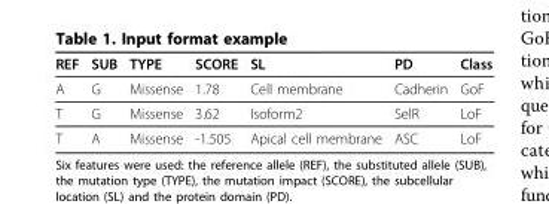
<table><thead><tr><td>REF</td><td>SUB</td><td>TYPE</td><td>SCORE</td><td>SL</td><td>PD</td><td>Class</td></tr></thead><tbody><tr><td>A</td><td>G</td><td>Missense</td><td>1.78</td><td>Cell membrane</td><td>Cadherin</td><td>GoF</td></tr><tr><td>T</td><td>G</td><td>Missense</td><td>3.62</td><td>Isoform2</td><td>SelR</td><td>LoF</td></tr><tr><td>T</td><td>A</td><td>Missense</td><td>-1.505</td><td>Apical cell membrane</td><td>ASC</td><td>LoF</td></tr></tbody></table>